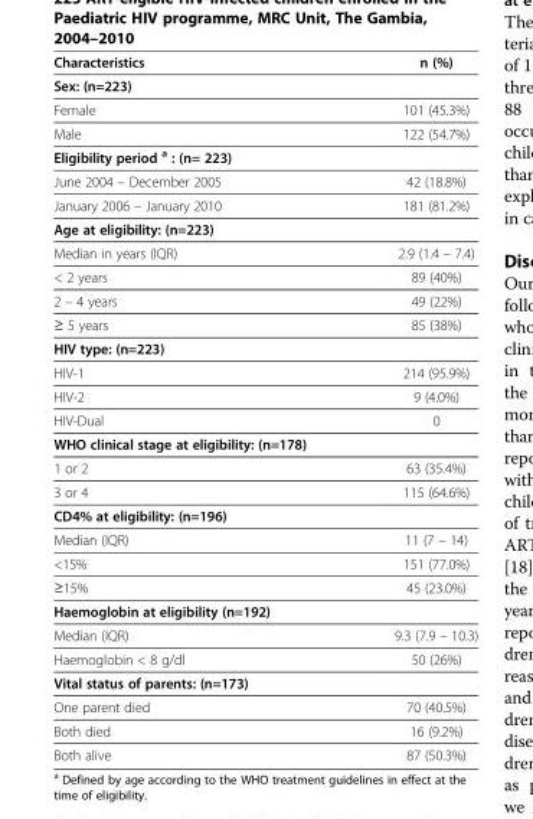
<table><thead><tr><td>Characteristics</td><td>n (%)</td></tr></thead><tbody><tr><td colspan="2">Sex: (n=223)</td></tr><tr><td>Female</td><td>101 (45.3%)</td></tr><tr><td>Male</td><td>122 (54.7%)</td></tr><tr><td colspan="2">Eligibility period <sup>a</sup> : (n= 223)</td></tr><tr><td>June 2004 – December 2005</td><td>42 (18.8%)</td></tr><tr><td>January 2006 – January 2010</td><td>181 (81.2%)</td></tr><tr><td colspan="2">Age at eligibility: (n=223)</td></tr><tr><td>Median in years (IQR)</td><td>2.9 (1.4 – 7.4)</td></tr><tr><td>&lt; 2 years</td><td>89 (40%)</td></tr><tr><td>2 – 4 years</td><td>49 (22%)</td></tr><tr><td>≥ 5 years</td><td>85 (38%)</td></tr><tr><td colspan="2">HIV type: (n=223)</td></tr><tr><td>HIV-1</td><td>214 (95.9%)</td></tr><tr><td>HIV-2</td><td>9 (4.0%)</td></tr><tr><td>HIV-Dual</td><td>0</td></tr><tr><td colspan="2">WHO clinical stage at eligibility: (n=178)</td></tr><tr><td>1 or 2</td><td>63 (35.4%)</td></tr><tr><td>3 or 4</td><td>115 (64.6%)</td></tr><tr><td colspan="2">CD4% at eligibility: (n=196)</td></tr><tr><td>Median (IQR)</td><td>11 (7 – 14)</td></tr><tr><td>&lt;15%</td><td>151 (77.0%)</td></tr><tr><td>≥15%</td><td>45 (23.0%)</td></tr><tr><td colspan="2">Haemoglobin at eligibility (n=192)</td></tr><tr><td>Median (IQR)</td><td>9.3 (7.9 – 10.3)</td></tr><tr><td>Haemoglobin &lt; 8 g/dl</td><td>50 (26%)</td></tr><tr><td colspan="2">Vital status of parents: (n=173)</td></tr><tr><td>One parent died</td><td>70 (40.5%)</td></tr><tr><td>Both died</td><td>16 (9.2%)</td></tr><tr><td>Both alive</td><td>87 (50.3%)</td></tr></tbody></table>